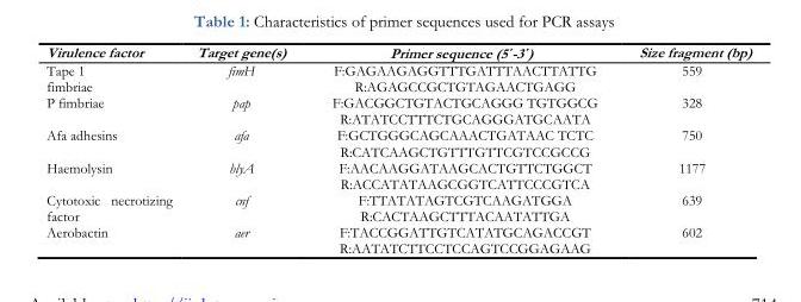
<table><thead><tr><td>Virulence factor</td><td>Target gene(s)</td><td>Primer sequence (5´-3´)</td><td>Size fragment (bp)</td></tr></thead><tbody><tr><td>Tape 1 fimbriae</td><td>fimH</td><td>F:GAGAAGAGGTTTGATTTAACTTATTG R:AGAGCCGCTGTAGAACTGAGG</td><td>559</td></tr><tr><td>P fimbriae</td><td>pap</td><td>F:GACGGCTGTACTGCAGGG TGTGGCG R:ATATCCTTTCTGCAGGGATGCAATA</td><td>328</td></tr><tr><td>Afa adhesins</td><td>afa</td><td>F:GCTGGGCAGCAAACTGATAAC TCTC R:CATCAAGCTGTTTGTTCGTCCGCCG</td><td>750</td></tr><tr><td>Haemolysin</td><td>hlyA</td><td>F:AACAAGGATAAGCACTGTTCTGGCT R:ACCATATAAGCGGTCATTCCCGTCA</td><td>1177</td></tr><tr><td>Cytotoxic necrotizing factor</td><td>cnf</td><td>F:TTATATAGTCGTCAAGATGGA R:CACTAAGCTTTACAATATTGA</td><td>639</td></tr><tr><td>Aerobactin</td><td>aer</td><td>F:TACCGGATTGTCATATGCAGACCGT R:AATATCTTCCTCCAGTCCGGAGAAG</td><td>602</td></tr></tbody></table>